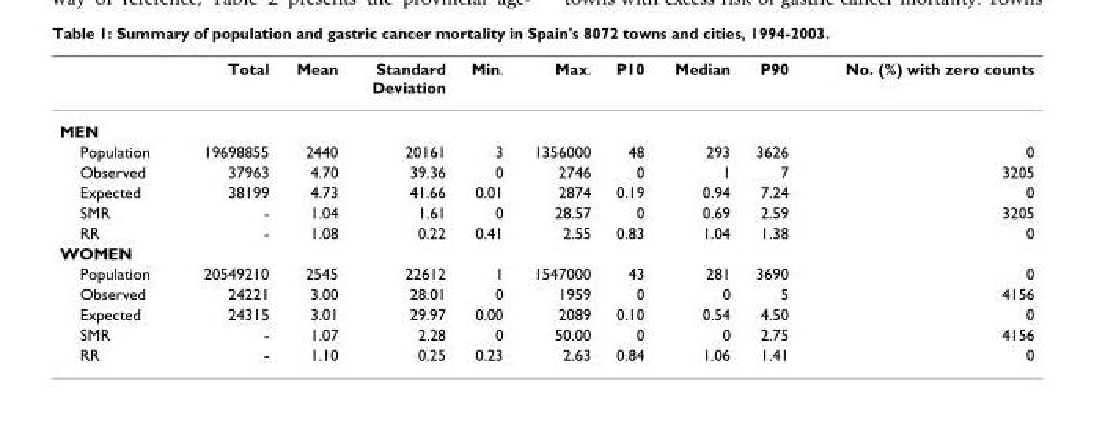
<table><thead><tr><td></td><td>Total</td><td>Mean</td><td>Standard Deviation</td><td>Min.</td><td>Max.</td><td>P10</td><td>Median</td><td>P90</td><td>No. (%) with zero counts</td></tr></thead><tbody><tr><td colspan="10">MEN</td></tr><tr><td>Population</td><td>19698855</td><td>2440</td><td>20161</td><td>3</td><td>1356000</td><td>48</td><td>293</td><td>3626</td><td>0</td></tr><tr><td>Observed</td><td>37963</td><td>4.70</td><td>39.36</td><td>0</td><td>2746</td><td>0</td><td>1</td><td>7</td><td>3205</td></tr><tr><td>Expected</td><td>38199</td><td>4.73</td><td>41.66</td><td>0.01</td><td>2874</td><td>0.19</td><td>0.94</td><td>7.24</td><td>0</td></tr><tr><td>SMR</td><td>-</td><td>1.04</td><td>1.61</td><td>0</td><td>28.57</td><td>0</td><td>0.69</td><td>2.59</td><td>3205</td></tr><tr><td>RR</td><td>-</td><td>1.08</td><td>0.22</td><td>0.41</td><td>2.55</td><td>0.83</td><td>1.04</td><td>1.38</td><td>0</td></tr><tr><td colspan="10">WOMEN</td></tr><tr><td>Population</td><td>20549210</td><td>2545</td><td>22612</td><td>1</td><td>1547000</td><td>43</td><td>281</td><td>3690</td><td>0</td></tr><tr><td>Observed</td><td>24221</td><td>3.00</td><td>28.01</td><td>0</td><td>1959</td><td>0</td><td>0</td><td>5</td><td>4156</td></tr><tr><td>Expected</td><td>24315</td><td>3.01</td><td>29.97</td><td>0.00</td><td>2089</td><td>0.10</td><td>0.54</td><td>4.50</td><td>0</td></tr><tr><td>SMR</td><td>-</td><td>1.07</td><td>2.28</td><td>0</td><td>50.00</td><td>0</td><td>0</td><td>2.75</td><td>4156</td></tr><tr><td>RR</td><td>-</td><td>1.10</td><td>0.25</td><td>0.23</td><td>2.63</td><td>0.84</td><td>1.06</td><td>1.41</td><td>0</td></tr></tbody></table>